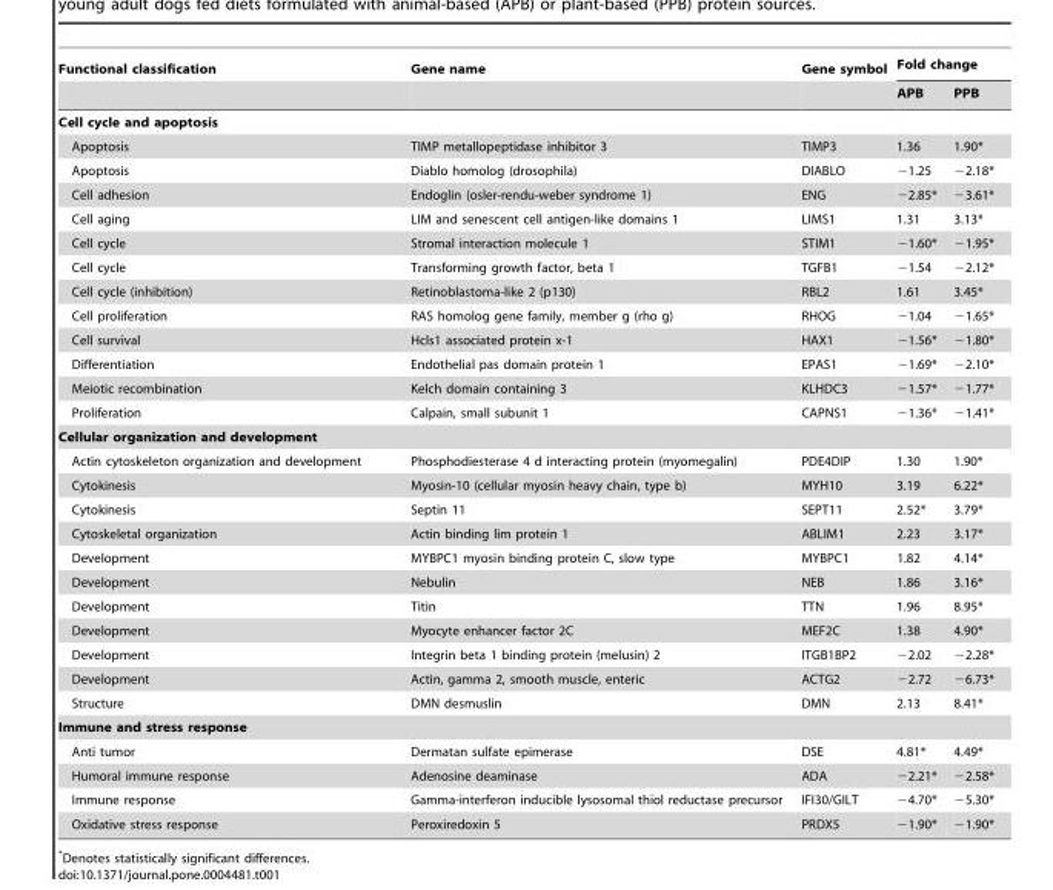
<table><thead><tr><td rowspan="2">Functional classification</td><td rowspan="2">Gene name</td><td rowspan="2">Gene symbol</td><td colspan="2">Fold change</td></tr><tr><td>APB</td><td>PPB</td></tr></thead><tbody><tr><td colspan="5">Cell cycle and apoptosis</td></tr><tr><td>Apoptosis</td><td>TIMP metallopeptidase inhibitor 3</td><td>TIMP3</td><td>1.36</td><td>1.90*</td></tr><tr><td>Apoptosis</td><td>Diablo homolog (drosophila)</td><td>DIABLO</td><td>−1.25</td><td>−2.18*</td></tr><tr><td>Cell adhesion</td><td>Endoglin (osler-rendu-weber syndrome 1)</td><td>ENG</td><td>−2.85*</td><td>−3.61*</td></tr><tr><td>Cell aging</td><td>LIM and senescent cell antigen-like domains 1</td><td>LIMS1</td><td>1.31</td><td>3.13*</td></tr><tr><td>Cell cycle</td><td>Stromal interaction molecule 1</td><td>STIM1</td><td>−1.60*</td><td>−1.95*</td></tr><tr><td>Cell cycle</td><td>Transforming growth factor, beta 1</td><td>TGFB1</td><td>−1.54</td><td>−2.12*</td></tr><tr><td>Cell cycle (inhibition)</td><td>Retinoblastoma-like 2 (p130)</td><td>RBL2</td><td>1.61</td><td>3.45*</td></tr><tr><td>Cell proliferation</td><td>RAS homolog gene family, member g (rho g)</td><td>RHOG</td><td>−1.04</td><td>−1.65*</td></tr><tr><td>Cell survival</td><td>Hcls1 associated protein x-1</td><td>HAX1</td><td>−1.56*</td><td>−1.80*</td></tr><tr><td>Differentiation</td><td>Endothelial pas domain protein 1</td><td>EPAS1</td><td>−1.69*</td><td>−2.10*</td></tr><tr><td>Meiotic recombination</td><td>Kelch domain containing 3</td><td>KLHDC3</td><td>−1.57*</td><td>−1.77*</td></tr><tr><td>Proliferation</td><td>Calpain, small subunit 1</td><td>CAPNS1</td><td>−1.36*</td><td>−1.41*</td></tr><tr><td colspan="5">Cellular organization and development</td></tr><tr><td>Actin cytoskeleton organization and development</td><td>Phosphodiesterase 4 d interacting protein (myomegalin)</td><td>PDE4DIP</td><td>1.30</td><td>1.90*</td></tr><tr><td>Cytokinesis</td><td>Myosin-10 (cellular myosin heavy chain, type b)</td><td>MYH10</td><td>3.19</td><td>6.22*</td></tr><tr><td>Cytokinesis</td><td>Septin 11</td><td>SEPT11</td><td>2.52*</td><td>3.79*</td></tr><tr><td>Cytoskeletal organization</td><td>Actin binding lim protein 1</td><td>ABLIM1</td><td>2.23</td><td>3.17*</td></tr><tr><td>Development</td><td>MYBPC1 myosin binding protein C, slow type</td><td>MYBPC1</td><td>1.82</td><td>4.14*</td></tr><tr><td>Development</td><td>Nebulin</td><td>NEB</td><td>1.86</td><td>3.16*</td></tr><tr><td>Development</td><td>Titin</td><td>TTN</td><td>1.96</td><td>8.95*</td></tr><tr><td>Development</td><td>Myocyte enhancer factor 2C</td><td>MEF2C</td><td>1.38</td><td>4.90*</td></tr><tr><td>Development</td><td>Integrin beta 1 binding protein (melusin) 2</td><td>ITGB1BP2</td><td>−2.02</td><td>−2.28*</td></tr><tr><td>Development</td><td>Actin, gamma 2, smooth muscle, enteric</td><td>ACTG2</td><td>−2.72</td><td>−6.73*</td></tr><tr><td>Structure</td><td>DMN desmuslin</td><td>DMN</td><td>2.13</td><td>8.41*</td></tr><tr><td colspan="5">Immune and stress response</td></tr><tr><td>Anti tumor</td><td>Dermatan sulfate epimerase</td><td>DSE</td><td>4.81*</td><td>4.49*</td></tr><tr><td>Humoral immune response</td><td>Adenosine deaminase</td><td>ADA</td><td>−2.21*</td><td>−2.58*</td></tr><tr><td>Immune response</td><td>Gamma-interferon inducible lysosomal thiol reductase precursor</td><td>IFI30/GILT</td><td>−4.70*</td><td>−5.30*</td></tr><tr><td>Oxidative stress response</td><td>Peroxiredoxin 5</td><td>PRDX5</td><td>−1.90*</td><td>−1.90*</td></tr></tbody></table>